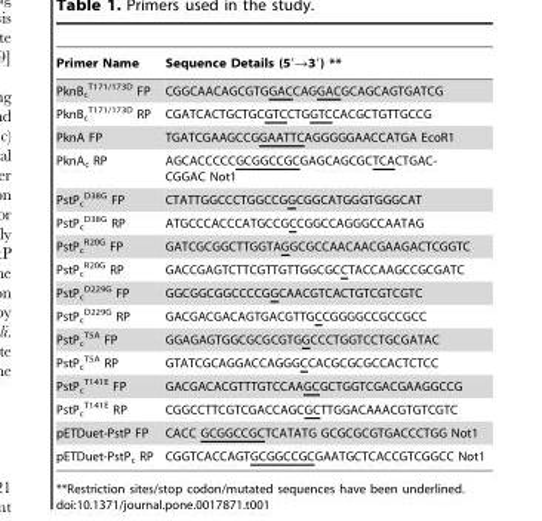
<table><thead><tr><td>Primer Name</td><td>Sequence Details (5′→3′) **</td></tr></thead><tbody><tr><td>PknB<sub>c</sub> <sup>T171/173D</sup> FP</td><td>CGGCAACAGCGTGGACCAGGACGCAGCAGTGATCG</td></tr><tr><td>PknB<sub>c</sub> <sup>T171/173D</sup> RP</td><td>CGATCACTGCTGCGTCCTGGTCCACGCTGTTGCCG</td></tr><tr><td>PknA FP</td><td>TGATCGAAGCCGGAATTCAGGGGGAACCATGA EcoR1</td></tr><tr><td>PknA<sub>c</sub> RP</td><td>AGCACCCCCGCGGCCGCGAGCAGCGCTCACTGAC- CGGAC Not1</td></tr><tr><td>PstP<sub>c</sub> <sup>D38G</sup> FP</td><td>CTATTGGCCCTGGCCGGCGGCATGGGTGGGCAT</td></tr><tr><td>PstP<sub>c</sub> <sup>D38G</sup> RP</td><td>ATGCCCACCCATGCCGCCGGCCAGGGCCAATAG</td></tr><tr><td>PstP<sub>c</sub> <sup>R20G</sup> FP</td><td>GATCGCGGCTTGGTAGGCGCCAACAACGAAGACTCGGTC</td></tr><tr><td>PstP<sub>c</sub> <sup>R20G</sup> RP</td><td>GACCGAGTCTTCGTTGTTGGCGCCTACCAAGCCGCGATC</td></tr><tr><td>PstP<sub>c</sub> <sup>D229G</sup> FP</td><td>GGCGGCGGCCCCGGCAACGTCACTGTCGTCGTC</td></tr><tr><td>PstP<sub>c</sub> <sup>D229G</sup> RP</td><td>GACGACGACAGTGACGTTGCCGGGGCCGCCGCC</td></tr><tr><td>PstP<sub>c</sub> <sup>T5A</sup> FP</td><td>GGAGAGTGGCGCGCGTGGCCCTGGTCCTGCGATAC</td></tr><tr><td>PstP<sub>c</sub> <sup>T5A</sup> RP</td><td>GTATCGCAGGACCAGGGCCACGCGCGCCACTCTCC</td></tr><tr><td>PstP<sub>c</sub> <sup>T141E</sup> FP</td><td>GACGACACGTTTGTCCAAGCGCTGGTCGACGAAGGCCG</td></tr><tr><td>PstP<sub>c</sub> <sup>T141E</sup> RP</td><td>CGGCCTTCGTCGACCAGCGCTTGGACAAACGTGTCGTC</td></tr><tr><td>pETDuet-PstP FP</td><td>CACC GCGGCCGCTCATATG GCGCGCGTGACCCTGG Not1</td></tr><tr><td>pETDuet-PstP<sub>c</sub> RP</td><td>CGGTCACCAGTGCGGCCGCGAATGCTCACCGTCGGCC Not1</td></tr></tbody></table>